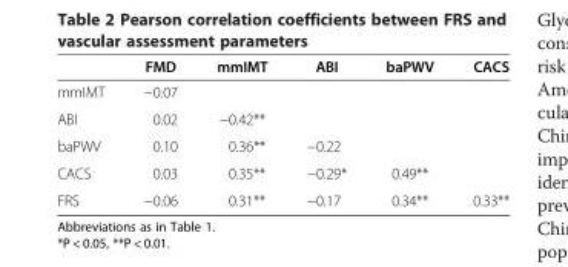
<table><thead><tr><td></td><td>FMD</td><td>mmIMT</td><td>ABI</td><td>baPWV</td><td>CACS</td></tr></thead><tbody><tr><td>mmIMT</td><td>−0.07</td><td></td><td></td><td></td><td></td></tr><tr><td>ABI</td><td>0.02</td><td>−0.42**</td><td></td><td></td><td></td></tr><tr><td>baPWV</td><td>0.10</td><td>0.36**</td><td>−0.22</td><td></td><td></td></tr><tr><td>CACS</td><td>0.03</td><td>0.35**</td><td>−0.29*</td><td>0.49**</td><td></td></tr><tr><td>FRS</td><td>−0.06</td><td>0.31**</td><td>−0.17</td><td>0.34**</td><td>0.33**</td></tr></tbody></table>